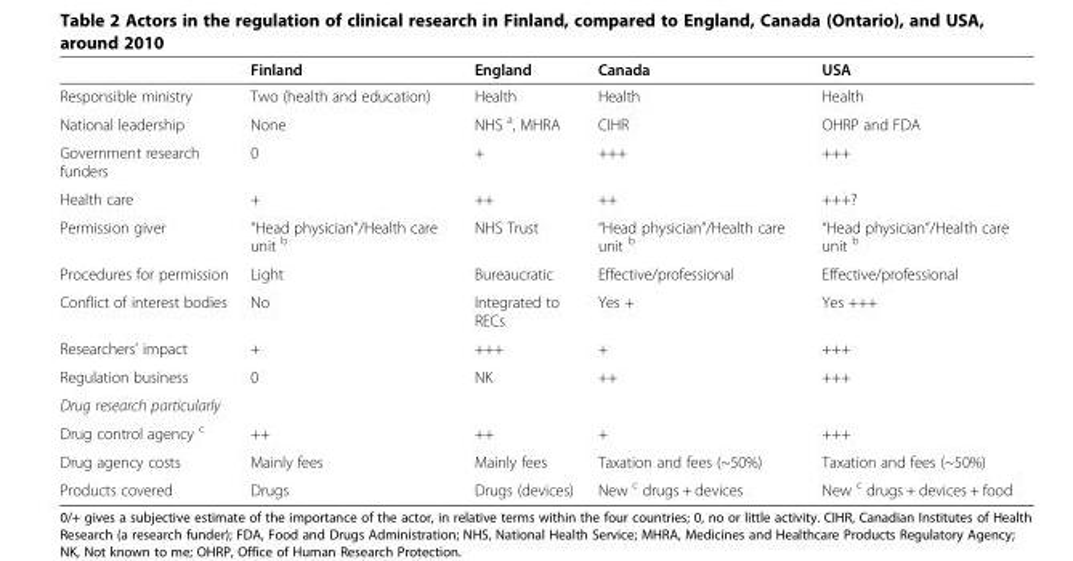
<table><thead><tr><td></td><td>Finland</td><td>England</td><td>Canada</td><td>USA</td></tr></thead><tbody><tr><td>Responsible ministry</td><td>Two (health and education)</td><td>Health</td><td>Health</td><td>Health</td></tr><tr><td>National leadership</td><td>None</td><td>NHS <sup>a</sup>, MHRA</td><td>CIHR</td><td>OHRP and FDA</td></tr><tr><td>Government research funders</td><td>0</td><td>+</td><td>+++</td><td>+++</td></tr><tr><td>Health care</td><td>+</td><td>++</td><td>++</td><td>+++?</td></tr><tr><td>Permission giver</td><td>“Head physician”/Health care unit <sup>b</sup></td><td>NHS Trust</td><td>“Head physician”/Health care unit <sup>b</sup></td><td>“Head physician”/Health care unit <sup>b</sup></td></tr><tr><td>Procedures for permission</td><td>Light</td><td>Bureaucratic</td><td>Effective/professional</td><td>Effective/professional</td></tr><tr><td>Conflict of interest bodies</td><td>No</td><td>Integrated to RECs</td><td>Yes +</td><td>Yes +++</td></tr><tr><td>Researchers’ impact</td><td>+</td><td>+++</td><td>+</td><td>+++</td></tr><tr><td>Regulation business</td><td>0</td><td>NK</td><td>++</td><td>+++</td></tr><tr><td colspan="5">Drug research particularly</td></tr><tr><td>Drug control agency <sup>c</sup></td><td>++</td><td>++</td><td>+</td><td>+++</td></tr><tr><td>Drug agency costs</td><td>Mainly fees</td><td>Mainly fees</td><td>Taxation and fees (~50%)</td><td>Taxation and fees (~50%)</td></tr><tr><td>Products covered</td><td>Drugs</td><td>Drugs (devices)</td><td>New <sup>c</sup> drugs + devices</td><td>New <sup>c</sup> drugs + devices + food</td></tr></tbody></table>